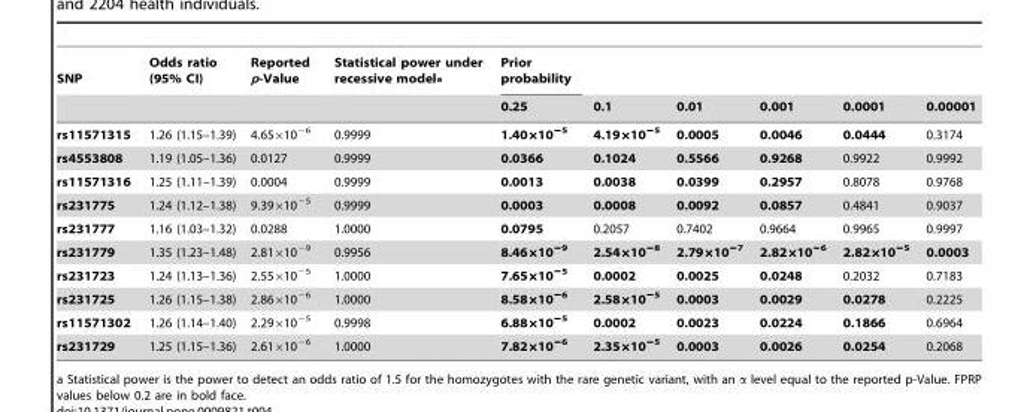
<table><thead><tr><td rowspan="2">SNP</td><td rowspan="2">Odds ratio (95% CI)</td><td rowspan="2">Reported p-Value</td><td rowspan="2">Statistical power under recessive model<sup>a</sup></td><td rowspan="2">Prior probability 0.25</td><td rowspan="2">0.1</td><td rowspan="2">0.01</td><td rowspan="2">0.001</td><td rowspan="2">0.0001</td><td rowspan="2">0.00001</td></tr><tr></tr></thead><tbody><tr><td>rs11571315</td><td>1.26 (1.15–1.39)</td><td>4.65×10<sup>−6</sup></td><td>0.9999</td><td>1.40×10<sup>−5</sup></td><td>4.19×10<sup>−5</sup></td><td>0.0005</td><td>0.0046</td><td>0.0444</td><td>0.3174</td></tr><tr><td>rs4553808</td><td>1.19 (1.05–1.36)</td><td>0.0127</td><td>0.9999</td><td>0.0366</td><td>0.1024</td><td>0.5566</td><td>0.9268</td><td>0.9922</td><td>0.9992</td></tr><tr><td>rs11571316</td><td>1.25 (1.11–1.39)</td><td>0.0004</td><td>0.9999</td><td>0.0013</td><td>0.0038</td><td>0.0399</td><td>0.2957</td><td>0.8078</td><td>0.9768</td></tr><tr><td>rs231775</td><td>1.24 (1.12–1.38)</td><td>9.39×10<sup>−5</sup></td><td>0.9999</td><td>0.0003</td><td>0.0008</td><td>0.0092</td><td>0.0857</td><td>0.4841</td><td>0.9037</td></tr><tr><td>rs231777</td><td>1.16 (1.03–1.32)</td><td>0.0288</td><td>1.0000</td><td>0.0795</td><td>0.2057</td><td>0.7402</td><td>0.9664</td><td>0.9965</td><td>0.9997</td></tr><tr><td>rs231779</td><td>1.35 (1.23–1.48)</td><td>2.81×10<sup>−9</sup></td><td>0.9956</td><td>8.46×10<sup>−9</sup></td><td>2.54×10<sup>−8</sup></td><td>2.79×10<sup>−7</sup></td><td>2.82×10<sup>−6</sup></td><td>2.82×10<sup>−5</sup></td><td>0.0003</td></tr><tr><td>rs231723</td><td>1.24 (1.13–1.36)</td><td>2.55×10<sup>−5</sup></td><td>1.0000</td><td>7.65×10<sup>−5</sup></td><td>0.0002</td><td>0.0025</td><td>0.0248</td><td>0.2032</td><td>0.7183</td></tr><tr><td>rs231725</td><td>1.26 (1.15–1.38)</td><td>2.86×10<sup>−6</sup></td><td>1.0000</td><td>8.58×10<sup>−6</sup></td><td>2.58×10<sup>−5</sup></td><td>0.0003</td><td>0.0029</td><td>0.0278</td><td>0.2225</td></tr><tr><td>rs11571302</td><td>1.26 (1.14–1.40)</td><td>2.29×10<sup>−5</sup></td><td>0.9998</td><td>6.88×10<sup>−5</sup></td><td>0.0002</td><td>0.0023</td><td>0.0224</td><td>0.1866</td><td>0.6964</td></tr><tr><td>rs231729</td><td>1.25 (1.15–1.36)</td><td>2.61×10<sup>−6</sup></td><td>1.0000</td><td>7.82×10<sup>−6</sup></td><td>2.35×10<sup>−5</sup></td><td>0.0003</td><td>0.0026</td><td>0.0254</td><td>0.2068</td></tr></tbody></table>